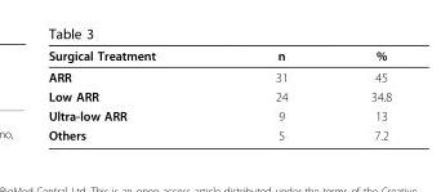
<table><thead><tr><td>Surgical Treatment</td><td>n</td><td>%</td></tr></thead><tbody><tr><td>ARR</td><td>31</td><td>45</td></tr><tr><td>Low ARR</td><td>24</td><td>34.8</td></tr><tr><td>Ultra-low ARR</td><td>9</td><td>13</td></tr><tr><td>Others</td><td>5</td><td>7.2</td></tr></tbody></table>